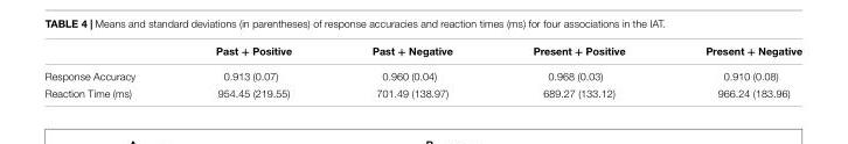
<table><thead><tr><td></td><td>Past + Positive</td><td>Past + Negative</td><td>Present + Positive</td><td>Present + Negative</td></tr></thead><tbody><tr><td>Response Accuracy</td><td>0.913 (0.07)</td><td>0.960 (0.04)</td><td>0.968 (0.03)</td><td>0.910 (0.08)</td></tr><tr><td>Reaction Time (ms)</td><td>954.45 (219.55)</td><td>701.49 (138.97)</td><td>689.27 (133.12)</td><td>966.24 (183.96)</td></tr></tbody></table>